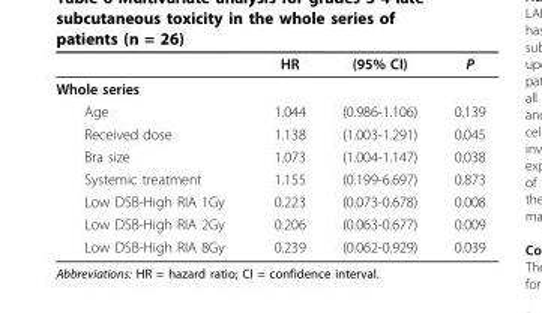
<table><thead><tr><td></td><td>HR</td><td>(95% CI)</td><td>P</td></tr></thead><tbody><tr><td colspan="4">Whole series</td></tr><tr><td>Age</td><td>1.044</td><td>(0.986-1.106)</td><td>0.139</td></tr><tr><td>Received dose</td><td>1.138</td><td>(1.003-1.291)</td><td>0.045</td></tr><tr><td>Bra size</td><td>1.073</td><td>(1.004-1.147)</td><td>0.038</td></tr><tr><td>Systemic treatment</td><td>1.155</td><td>(0.199-6.697)</td><td>0.873</td></tr><tr><td>Low DSB-High RIA 1Gy</td><td>0.223</td><td>(0.073-0.678)</td><td>0.008</td></tr><tr><td>Low DSB-High RIA 2Gy</td><td>0.206</td><td>(0.063-0.677)</td><td>0.009</td></tr><tr><td>Low DSB-High RIA 8Gy</td><td>0.239</td><td>(0.062-0.929)</td><td>0.039</td></tr></tbody></table>